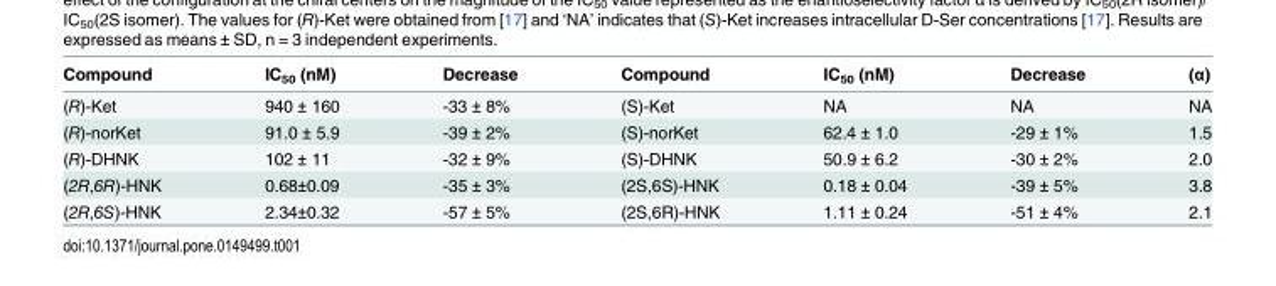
<table><thead><tr><td>Compound</td><td>IC<sub>50</sub> (nM)</td><td>Decrease</td><td>Compound</td><td>IC<sub>50</sub> (nM)</td><td>Decrease</td><td>(α)</td></tr></thead><tbody><tr><td>(R)-Ket</td><td>940 ± 160</td><td>-33 ± 8%</td><td>(S)-Ket</td><td>NA</td><td>NA</td><td>NA</td></tr><tr><td>(R)-norKet</td><td>91.0 ± 5.9</td><td>-39 ± 2%</td><td>(S)-norKet</td><td>62.4 ± 1.0</td><td>-29 ± 1%</td><td>1.5</td></tr><tr><td>(R)-DHNK</td><td>102 ± 11</td><td>-32 ± 9%</td><td>(S)-DHNK</td><td>50.9 ± 6.2</td><td>-30 ± 2%</td><td>2.0</td></tr><tr><td>(2R,6R)-HNK</td><td>0.68±0.09</td><td>-35 ± 3%</td><td>(2S,6S)-HNK</td><td>0.18 ± 0.04</td><td>-39 ± 5%</td><td>3.8</td></tr><tr><td>(2R,6S)-HNK</td><td>2.34±0.32</td><td>-57 ± 5%</td><td>(2S,6R)-HNK</td><td>1.11 ± 0.24</td><td>-51 ± 4%</td><td>2.1</td></tr></tbody></table>